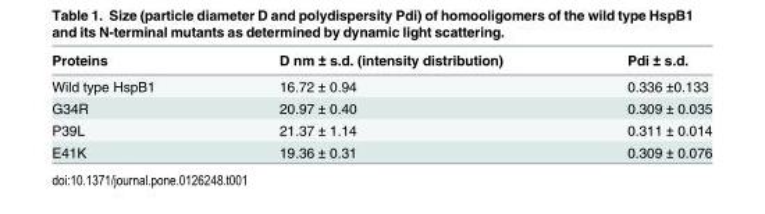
<table><thead><tr><td>Proteins</td><td>D nm ± s.d. (intensity distribution)</td><td>Pdi ± s.d.</td></tr></thead><tbody><tr><td>Wild type HspB1</td><td>16.72 ± 0.94</td><td>0.336 ±0.133</td></tr><tr><td>G34R</td><td>20.97 ± 0.40</td><td>0.309 ± 0.035</td></tr><tr><td>P39L</td><td>21.37 ± 1.14</td><td>0.311 ± 0.014</td></tr><tr><td>E41K</td><td>19.36 ± 0.31</td><td>0.309 ± 0.076</td></tr></tbody></table>